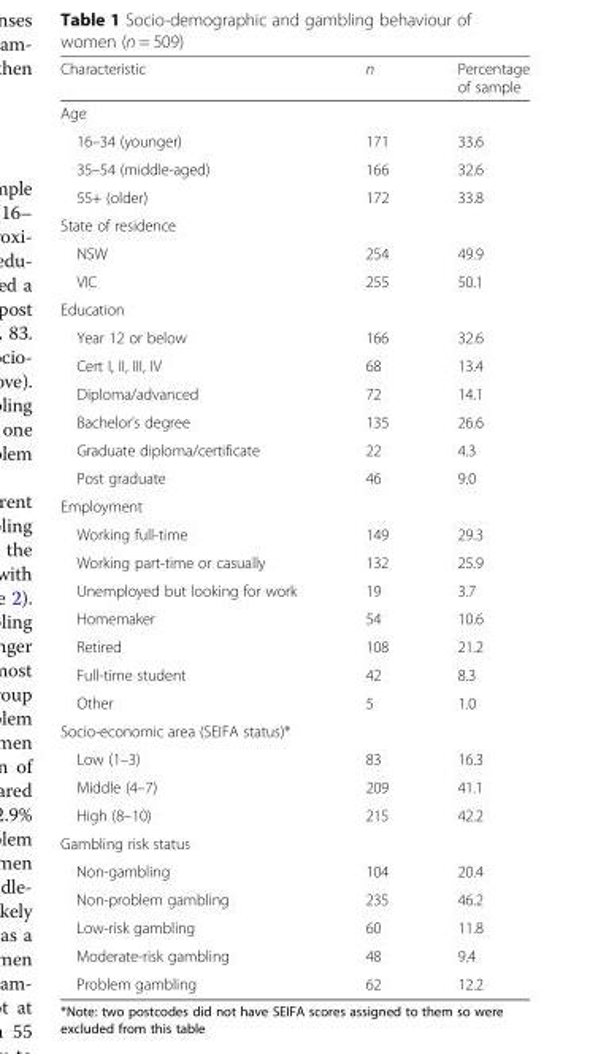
<table><thead><tr><td>Characteristic</td><td>n</td><td>Percentage of sample</td></tr></thead><tbody><tr><td colspan="3">Age</td></tr><tr><td>16–34 (younger)</td><td>171</td><td>33.6</td></tr><tr><td>35–54 (middle-aged)</td><td>166</td><td>32.6</td></tr><tr><td>55+ (older)</td><td>172</td><td>33.8</td></tr><tr><td colspan="3">State of residence</td></tr><tr><td>NSW</td><td>254</td><td>49.9</td></tr><tr><td>VIC</td><td>255</td><td>50.1</td></tr><tr><td colspan="3">Education</td></tr><tr><td>Year 12 or below</td><td>166</td><td>32.6</td></tr><tr><td>Cert I, II, III, IV</td><td>68</td><td>13.4</td></tr><tr><td>Diploma/advanced</td><td>72</td><td>14.1</td></tr><tr><td>Bachelor’s degree</td><td>135</td><td>26.6</td></tr><tr><td>Graduate diploma/certificate</td><td>22</td><td>4.3</td></tr><tr><td>Post graduate</td><td>46</td><td>9.0</td></tr><tr><td colspan="3">Employment</td></tr><tr><td>Working full-time</td><td>149</td><td>29.3</td></tr><tr><td>Working part-time or casually</td><td>132</td><td>25.9</td></tr><tr><td>Unemployed but looking for work</td><td>19</td><td>3.7</td></tr><tr><td>Homemaker</td><td>54</td><td>10.6</td></tr><tr><td>Retired</td><td>108</td><td>21.2</td></tr><tr><td>Full-time student</td><td>42</td><td>8.3</td></tr><tr><td>Other</td><td>5</td><td>1.0</td></tr><tr><td colspan="3">Socio-economic area (SEIFA status)*</td></tr><tr><td>Low (1–3)</td><td>83</td><td>16.3</td></tr><tr><td>Middle (4–7)</td><td>209</td><td>41.1</td></tr><tr><td>High (8–10)</td><td>215</td><td>42.2</td></tr><tr><td colspan="3">Gambling risk status</td></tr><tr><td>Non-gambling</td><td>104</td><td>20.4</td></tr><tr><td>Non-problem gambling</td><td>235</td><td>46.2</td></tr><tr><td>Low-risk gambling</td><td>60</td><td>11.8</td></tr><tr><td>Moderate-risk gambling</td><td>48</td><td>9.4</td></tr><tr><td>Problem gambling</td><td>62</td><td>12.2</td></tr></tbody></table>